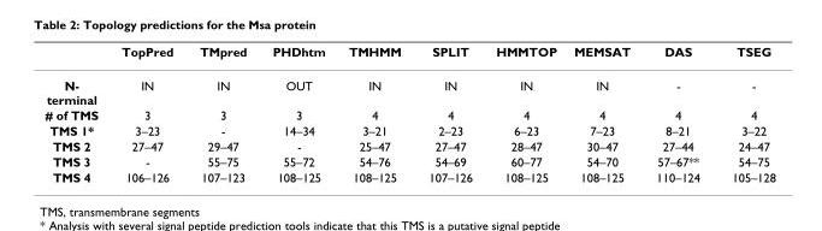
<table><thead><tr><td></td><td>TopPred</td><td>TMpred</td><td>PHDhtm</td><td>TMHMM</td><td>SPLIT</td><td>HMMTOP</td><td>MEMSAT</td><td>DAS</td><td>TSEG</td></tr></thead><tbody><tr><td>N- terminal</td><td>IN</td><td>IN</td><td>OUT</td><td>IN</td><td>IN</td><td>IN</td><td>IN</td><td>-</td><td>-</td></tr><tr><td># of TMS</td><td>3</td><td>3</td><td>3</td><td>4</td><td>4</td><td>4</td><td>4</td><td>4</td><td>4</td></tr><tr><td>TMS 1*</td><td>3–23</td><td>-</td><td>14–34</td><td>3–21</td><td>2–23</td><td>6–23</td><td>7–23</td><td>8–21</td><td>3–22</td></tr><tr><td>TMS 2</td><td>27–47</td><td>29–47</td><td>-</td><td>25–47</td><td>27–47</td><td>28–47</td><td>30–47</td><td>27–44</td><td>24–47</td></tr><tr><td>TMS 3</td><td>-</td><td>55–75</td><td>55–72</td><td>54–76</td><td>54–69</td><td>60–77</td><td>54–70</td><td>57–67**</td><td>54–75</td></tr><tr><td>TMS 4</td><td>106–126</td><td>107–123</td><td>108–125</td><td>108–125</td><td>107–126</td><td>108–125</td><td>108–125</td><td>110–124</td><td>105–128</td></tr></tbody></table>